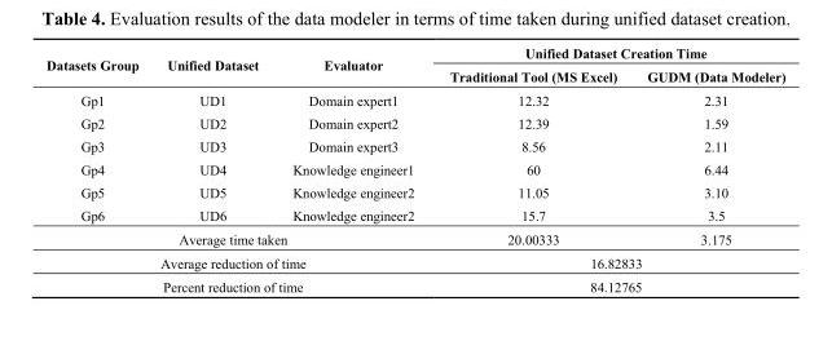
<table><thead><tr><td rowspan="2">Datasets Group</td><td rowspan="2">Unified Dataset</td><td rowspan="2">Evaluator</td><td colspan="2">Unified Dataset Creation Time</td></tr><tr><td>Traditional Tool (MS Excel)</td><td>GUDM (Data Modeler)</td></tr></thead><tbody><tr><td>Gp1</td><td>UD1</td><td>Domain expert1</td><td>12.32</td><td>2.31</td></tr><tr><td>Gp2</td><td>UD2</td><td>Domain expert2</td><td>12.39</td><td>1.59</td></tr><tr><td>Gp3</td><td>UD3</td><td>Domain expert3</td><td>8.56</td><td>2.11</td></tr><tr><td>Gp4</td><td>UD4</td><td>Knowledge engineer1</td><td>60</td><td>6.44</td></tr><tr><td>Gp5</td><td>UD5</td><td>Knowledge engineer2</td><td>11.05</td><td>3.10</td></tr><tr><td>Gp6</td><td>UD6</td><td>Knowledge engineer2</td><td>15.7</td><td>3.5</td></tr><tr><td colspan="3">Average time taken</td><td>20.00333</td><td>3.175</td></tr><tr><td colspan="3">Average reduction of time</td><td colspan="2">16.82833</td></tr><tr><td colspan="3">Percent reduction of time</td><td colspan="2">84.12765</td></tr></tbody></table>